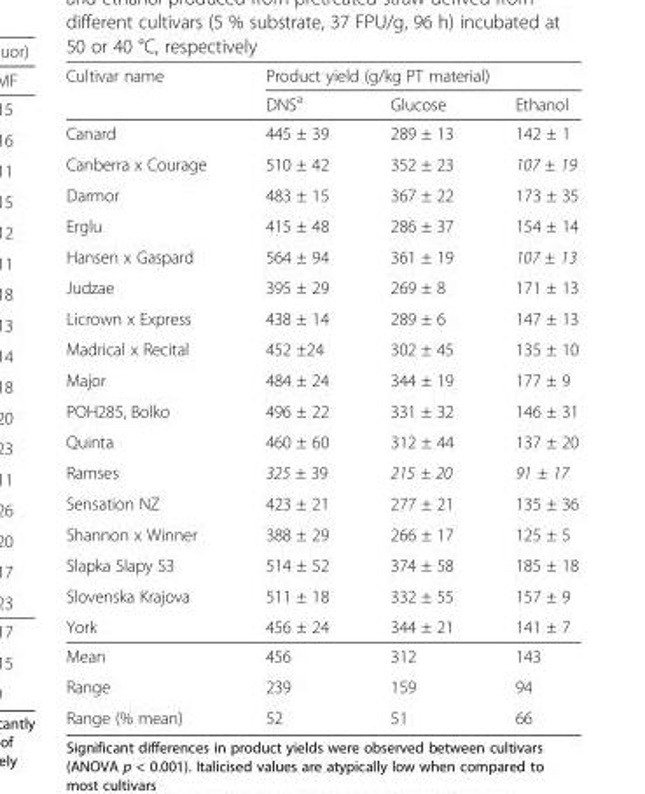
<table><thead><tr><td rowspan="2">Cultivar name</td><td colspan="3">Product yield (g/kg PT material)</td></tr><tr><td>DNS<sup>a</sup></td><td>Glucose</td><td>Ethanol</td></tr></thead><tbody><tr><td>Canard</td><td>445 ± 39</td><td>289 ± 13</td><td>142 ± 1</td></tr><tr><td>Canberra x Courage</td><td>510 ± 42</td><td>352 ± 23</td><td>107 ± 19</td></tr><tr><td>Darmor</td><td>483 ± 15</td><td>367 ± 22</td><td>173 ± 35</td></tr><tr><td>Erglu</td><td>415 ± 48</td><td>286 ± 37</td><td>154 ± 14</td></tr><tr><td>Hansen x Gaspard</td><td>564 ± 94</td><td>361 ± 19</td><td>107 ± 13</td></tr><tr><td>Judzae</td><td>395 ± 29</td><td>269 ± 8</td><td>171 ± 13</td></tr><tr><td>Licrown x Express</td><td>438 ± 14</td><td>289 ± 6</td><td>147 ± 13</td></tr><tr><td>Madrical x Recital</td><td>452 ±24</td><td>302 ± 45</td><td>135 ± 10</td></tr><tr><td>Major</td><td>484 ± 24</td><td>344 ± 19</td><td>177 ± 9</td></tr><tr><td>POH285, Bolko</td><td>496 ± 22</td><td>331 ± 32</td><td>146 ± 31</td></tr><tr><td>Quinta</td><td>460 ± 60</td><td>312 ± 44</td><td>137 ± 20</td></tr><tr><td>Ramses</td><td>325 ± 39</td><td>215 ± 20</td><td>91 ± 17</td></tr><tr><td>Sensation NZ</td><td>423 ± 21</td><td>277 ± 21</td><td>135 ± 36</td></tr><tr><td>Shannon x Winner</td><td>388 ± 29</td><td>266 ± 17</td><td>125 ± 5</td></tr><tr><td>Slapka Slapy S3</td><td>514 ± 52</td><td>374 ± 58</td><td>185 ± 18</td></tr><tr><td>Slovenska Krajova</td><td>511 ± 18</td><td>332 ± 55</td><td>157 ± 9</td></tr><tr><td>York</td><td>456 ± 24</td><td>344 ± 21</td><td>141 ± 7</td></tr><tr><td>Mean</td><td>456</td><td>312</td><td>143</td></tr><tr><td>Range</td><td>239</td><td>159</td><td>94</td></tr><tr><td>Range (% mean)</td><td>52</td><td>51</td><td>66</td></tr></tbody></table>